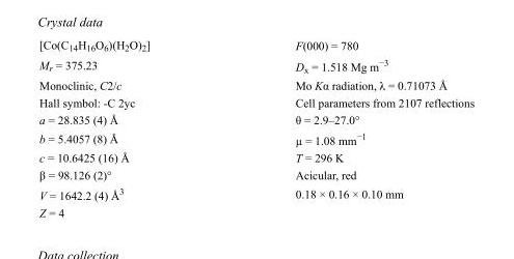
<table><tbody><tr><td>[Co(C<sub>14</sub>H<sub>16</sub>O<sub>6</sub>)(H<sub>2</sub>O)<sub>2</sub>]</td><td>F(000) = 780</td></tr><tr><td>M<sub>r</sub> = 375.23</td><td>D<sub>x</sub> = 1.518 Mg m<sup>−3</sup></td></tr><tr><td>Monoclinic, C2/c</td><td>Mo Kα radiation, λ = 0.71073 Å</td></tr><tr><td>Hall symbol: -C 2yc</td><td>Cell parameters from 2107 reflections</td></tr><tr><td>a = 28.835 (4) Å</td><td>θ = 2.9–27.0°</td></tr><tr><td>b = 5.4057 (8) Å</td><td>µ = 1.08 mm<sup>−1</sup></td></tr><tr><td>c = 10.6425 (16) Å</td><td>T = 296 K</td></tr><tr><td>β = 98.126 (2)°</td><td>Acicular, red</td></tr><tr><td>V = 1642.2 (4) Å<sup>3</sup></td><td>0.18 × 0.16 × 0.10 mm</td></tr><tr><td>Z = 4</td><td></td></tr></tbody></table>